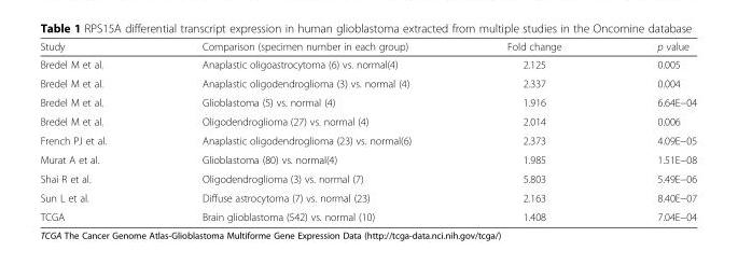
<table><thead><tr><td>Study</td><td>Comparison (specimen number in each group)</td><td>Fold change</td><td>p value</td></tr></thead><tbody><tr><td>Bredel M et al.</td><td>Anaplastic oligoastrocytoma (6) vs. normal(4)</td><td>2.125</td><td>0.005</td></tr><tr><td>Bredel M et al.</td><td>Anaplastic oligodendroglioma (3) vs. normal (4)</td><td>2.337</td><td>0.004</td></tr><tr><td>Bredel M et al.</td><td>Glioblastoma (5) vs. normal (4)</td><td>1.916</td><td>6.64E−04</td></tr><tr><td>Bredel M et al.</td><td>Oligodendroglioma (27) vs. normal (4)</td><td>2.014</td><td>0.006</td></tr><tr><td>French PJ et al.</td><td>Anaplastic oligodendroglioma (23) vs. normal(6)</td><td>2.373</td><td>4.09E−05</td></tr><tr><td>Murat A et al.</td><td>Glioblastoma (80) vs. normal(4)</td><td>1.985</td><td>1.51E−08</td></tr><tr><td>Shai R et al.</td><td>Oligodendroglioma (3) vs. normal (7)</td><td>5.803</td><td>5.49E−06</td></tr><tr><td>Sun L et al.</td><td>Diffuse astrocytoma (7) vs. normal (23)</td><td>2.163</td><td>8.40E−07</td></tr><tr><td>TCGA</td><td>Brain glioblastoma (542) vs. normal (10)</td><td>1.408</td><td>7.04E−04</td></tr></tbody></table>